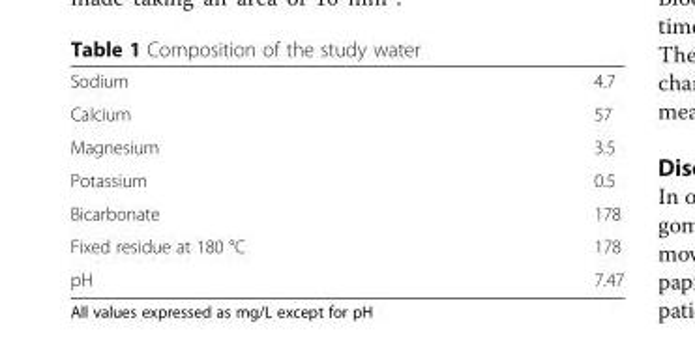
<table><tbody><tr><td>Sodium</td><td>4.7</td></tr><tr><td>Calcium</td><td>57</td></tr><tr><td>Magnesium</td><td>3.5</td></tr><tr><td>Potassium</td><td>0.5</td></tr><tr><td>Bicarbonate</td><td>178</td></tr><tr><td>Fixed residue at 180 °C</td><td>178</td></tr><tr><td>pH</td><td>7.47</td></tr></tbody></table>